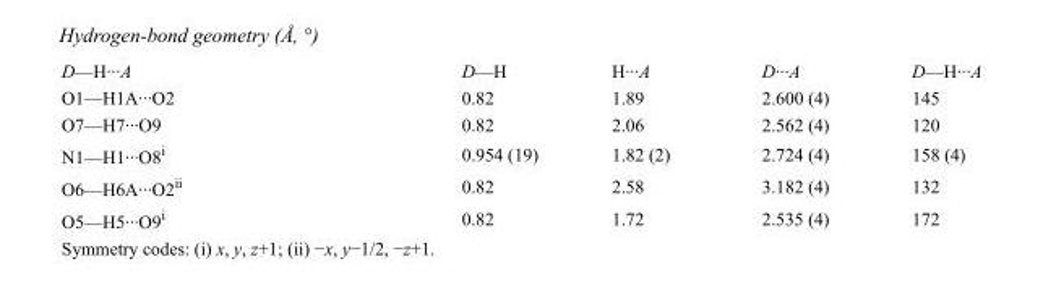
<table><tbody><tr><td>D—H···A</td><td>D—H</td><td>H···A</td><td>D···A</td><td>D—H···A</td></tr><tr><td>O1—H1A···O2</td><td>0.82</td><td>1.89</td><td>2.600 (4)</td><td>145</td></tr><tr><td>O7—H7···O9</td><td>0.82</td><td>2.06</td><td>2.562 (4)</td><td>120</td></tr><tr><td>N1—H1···O8<sup>i</sup></td><td>0.954 (19)</td><td>1.82 (2)</td><td>2.724 (4)</td><td>158 (4)</td></tr><tr><td>O6—H6A···O2<sup>ii</sup></td><td>0.82</td><td>2.58</td><td>3.182 (4)</td><td>132</td></tr><tr><td>O5—H5···O9<sup>i</sup></td><td>0.82</td><td>1.72</td><td>2.535 (4)</td><td>172</td></tr></tbody></table>